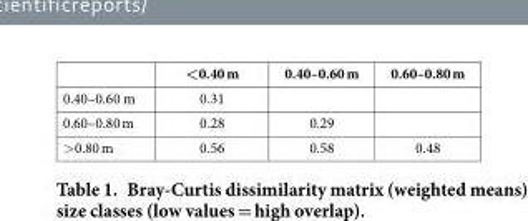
<table><thead><tr><td></td><td>&lt;0.40 m</td><td>0.40–0.60 m</td><td>0.60–0.80 m</td></tr></thead><tbody><tr><td>0.40–0.60 m</td><td>0.31</td><td></td><td></td></tr><tr><td>0.60–0.80 m</td><td>0.28</td><td>0.29</td><td></td></tr><tr><td>&gt; 0.80 m</td><td>0.56</td><td>0.58</td><td>0.48</td></tr></tbody></table>